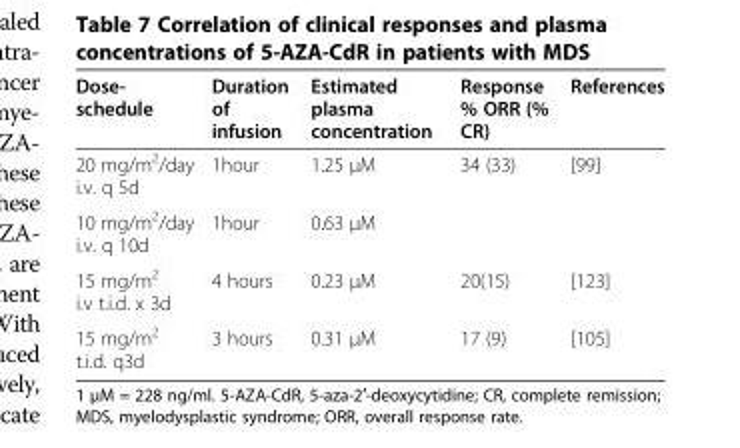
<table><thead><tr><td>Dose- schedule</td><td>Duration of infusion</td><td>Estimated plasma concentration</td><td>Response % ORR (% CR)</td><td>References</td></tr></thead><tbody><tr><td>20 mg/m<sup>2</sup>/day i.v. q 5d</td><td>1hour</td><td>1.25 μM</td><td>34 (33)</td><td>[99]</td></tr><tr><td>10 mg/m<sup>2</sup>/day i.v. q 10d</td><td>1hour</td><td>0.63 μM</td><td></td><td></td></tr><tr><td>15 mg/m<sup>2</sup> i.v t.i.d. x 3d</td><td>4 hours</td><td>0.23 μM</td><td>20(15)</td><td>[123]</td></tr><tr><td>15 mg/m<sup>2</sup> t.i.d. q3d</td><td>3 hours</td><td>0.31 μM</td><td>17 (9)</td><td>[105]</td></tr></tbody></table>